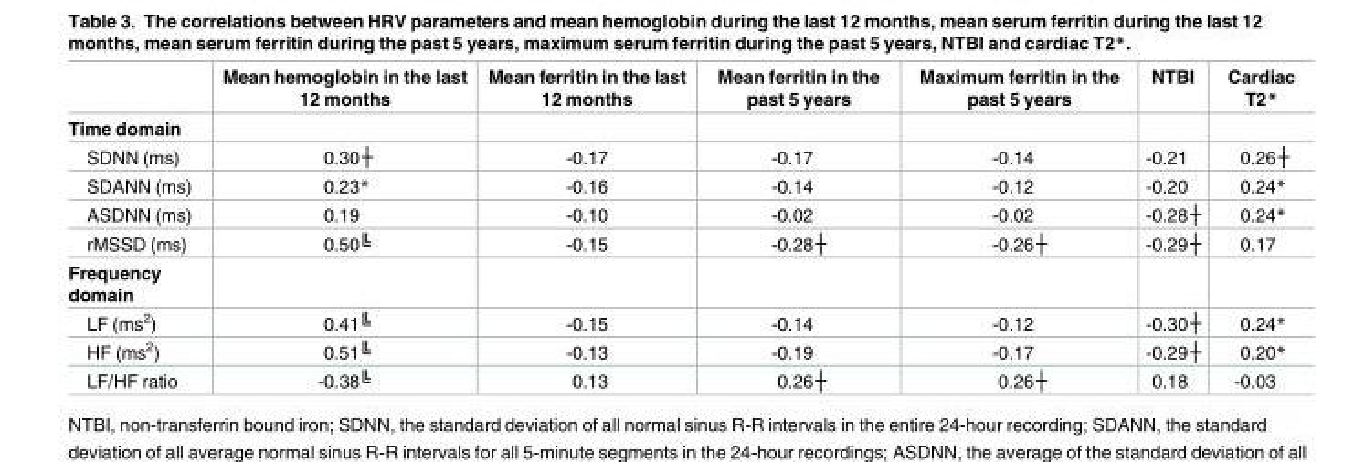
<table><thead><tr><td></td><td>Mean hemoglobin in the last 12 months</td><td>Mean ferritin in the last 12 months</td><td>Mean ferritin in the past 5 years</td><td>Maximum ferritin in the past 5 years</td><td>NTBI</td><td>Cardiac T2*</td></tr></thead><tbody><tr><td colspan="7">Time domain</td></tr><tr><td>SDNN (ms)</td><td>0.30┼</td><td>-0.17</td><td>-0.17</td><td>-0.14</td><td>-0.21</td><td>0.26┼</td></tr><tr><td>SDANN (ms)</td><td>0.23*</td><td>-0.16</td><td>-0.14</td><td>-0.12</td><td>-0.20</td><td>0.24*</td></tr><tr><td>ASDNN (ms)</td><td>0.19</td><td>-0.10</td><td>-0.02</td><td>-0.02</td><td>-0.28┼</td><td>0.24*</td></tr><tr><td>rMSSD (ms)</td><td>0.50╚</td><td>-0.15</td><td>-0.28┼</td><td>-0.26┼</td><td>-0.29┼</td><td>0.17</td></tr><tr><td colspan="7">Frequency domain</td></tr><tr><td>LF (ms<sup>2</sup>)</td><td>0.41╚</td><td>-0.15</td><td>-0.14</td><td>-0.12</td><td>-0.30┼</td><td>0.24*</td></tr><tr><td>HF (ms<sup>2</sup>)</td><td>0.51╚</td><td>-0.13</td><td>-0.19</td><td>-0.17</td><td>-0.29┼</td><td>0.20*</td></tr><tr><td>LF/HF ratio</td><td>-0.38╚</td><td>0.13</td><td>0.26┼</td><td>0.26┼</td><td>0.18</td><td>-0.03</td></tr></tbody></table>